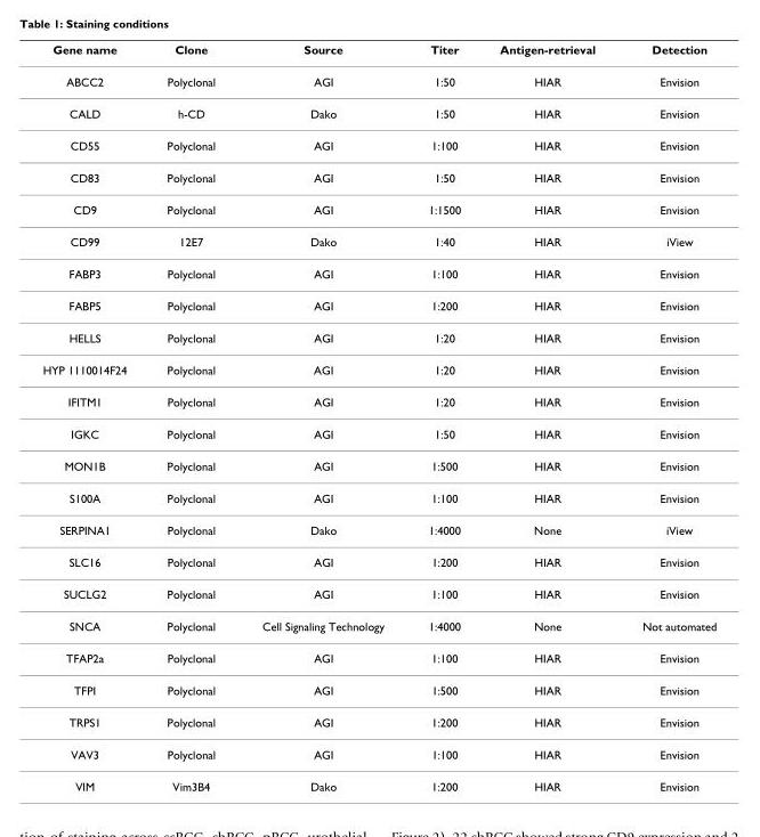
<table><thead><tr><td>Gene name</td><td>Clone</td><td>Source</td><td>Titer</td><td>Antigen-retrieval</td><td>Detection</td></tr></thead><tbody><tr><td>ABCC2</td><td>Polyclonal</td><td>AGI</td><td>1:50</td><td>HIAR</td><td>Envision</td></tr><tr><td>CALD</td><td>h-CD</td><td>Dako</td><td>1:50</td><td>HIAR</td><td>Envision</td></tr><tr><td>CD55</td><td>Polyclonal</td><td>AGI</td><td>1:100</td><td>HIAR</td><td>Envision</td></tr><tr><td>CD83</td><td>Polyclonal</td><td>AGI</td><td>1:50</td><td>HIAR</td><td>Envision</td></tr><tr><td>CD9</td><td>Polyclonal</td><td>AGI</td><td>1:1500</td><td>HIAR</td><td>Envision</td></tr><tr><td>CD99</td><td>12E7</td><td>Dako</td><td>1:40</td><td>HIAR</td><td>iView</td></tr><tr><td>FABP3</td><td>Polyclonal</td><td>AGI</td><td>1:100</td><td>HIAR</td><td>Envision</td></tr><tr><td>FABP5</td><td>Polyclonal</td><td>AGI</td><td>1:200</td><td>HIAR</td><td>Envision</td></tr><tr><td>HELLS</td><td>Polyclonal</td><td>AGI</td><td>1:20</td><td>HIAR</td><td>Envision</td></tr><tr><td>HYP 1110014F24</td><td>Polyclonal</td><td>AGI</td><td>1:20</td><td>HIAR</td><td>Envision</td></tr><tr><td>IFITM1</td><td>Polyclonal</td><td>AGI</td><td>1:20</td><td>HIAR</td><td>Envision</td></tr><tr><td>IGKC</td><td>Polyclonal</td><td>AGI</td><td>1:50</td><td>HIAR</td><td>Envision</td></tr><tr><td>MON1B</td><td>Polyclonal</td><td>AGI</td><td>1:500</td><td>HIAR</td><td>Envision</td></tr><tr><td>S100A</td><td>Polyclonal</td><td>AGI</td><td>1:100</td><td>HIAR</td><td>Envision</td></tr><tr><td>SERPINA1</td><td>Polyclonal</td><td>Dako</td><td>1:4000</td><td>None</td><td>iView</td></tr><tr><td>SLC16</td><td>Polyclonal</td><td>AGI</td><td>1:200</td><td>HIAR</td><td>Envision</td></tr><tr><td>SUCLG2</td><td>Polyclonal</td><td>AGI</td><td>1:100</td><td>HIAR</td><td>Envision</td></tr><tr><td>SNCA</td><td>Polyclonal</td><td>Cell Signaling Technology</td><td>1:4000</td><td>None</td><td>Not automated</td></tr><tr><td>TFAP2a</td><td>Polyclonal</td><td>AGI</td><td>1:100</td><td>HIAR</td><td>Envision</td></tr><tr><td>TFPI</td><td>Polyclonal</td><td>AGI</td><td>1:500</td><td>HIAR</td><td>Envision</td></tr><tr><td>TRPS1</td><td>Polyclonal</td><td>AGI</td><td>1:200</td><td>HIAR</td><td>Envision</td></tr><tr><td>VAV3</td><td>Polyclonal</td><td>AGI</td><td>1:100</td><td>HIAR</td><td>Envision</td></tr><tr><td>VIM</td><td>Vim3B4</td><td>Dako</td><td>1:200</td><td>HIAR</td><td>Envision</td></tr></tbody></table>